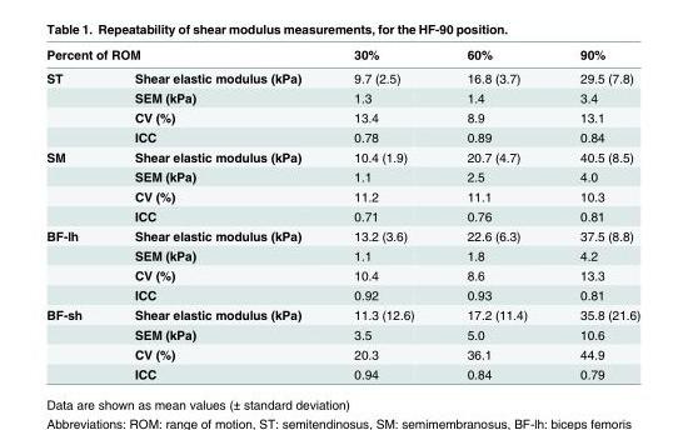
<table><thead><tr><td colspan="2">Percent of ROM</td><td rowspan="2">30% 9.7 (2.5)</td><td rowspan="2">60% 16.8 (3.7)</td><td rowspan="2">90% 29.5 (7.8)</td></tr><tr><td>ST</td><td>Shear elastic modulus (kPa)</td></tr></thead><tbody><tr><td></td><td>SEM (kPa)</td><td>1.3</td><td>1.4</td><td>3.4</td></tr><tr><td></td><td>CV (%)</td><td>13.4</td><td>8.9</td><td>13.1</td></tr><tr><td></td><td>ICC</td><td>0.78</td><td>0.89</td><td>0.84</td></tr><tr><td rowspan="4">SM</td><td>Shear elastic modulus (kPa)</td><td>10.4 (1.9)</td><td>20.7 (4.7)</td><td>40.5 (8.5)</td></tr><tr><td>SEM (kPa)</td><td>1.1</td><td>2.5</td><td>4.0</td></tr><tr><td>CV (%)</td><td>11.2</td><td>11.1</td><td>10.3</td></tr><tr><td>ICC</td><td>0.71</td><td>0.76</td><td>0.81</td></tr><tr><td rowspan="4">BF-lh</td><td>Shear elastic modulus (kPa)</td><td>13.2 (3.6)</td><td>22.6 (6.3)</td><td>37.5 (8.8)</td></tr><tr><td>SEM (kPa)</td><td>1.1</td><td>1.8</td><td>4.2</td></tr><tr><td>CV (%)</td><td>10.4</td><td>8.6</td><td>13.3</td></tr><tr><td>ICC</td><td>0.92</td><td>0.93</td><td>0.81</td></tr><tr><td rowspan="4">BF-sh</td><td>Shear elastic modulus (kPa)</td><td>11.3 (12.6)</td><td>17.2 (11.4)</td><td>35.8 (21.6)</td></tr><tr><td>SEM (kPa)</td><td>3.5</td><td>5.0</td><td>10.6</td></tr><tr><td>CV (%)</td><td>20.3</td><td>36.1</td><td>44.9</td></tr><tr><td>ICC</td><td>0.94</td><td>0.84</td><td>0.79</td></tr></tbody></table>